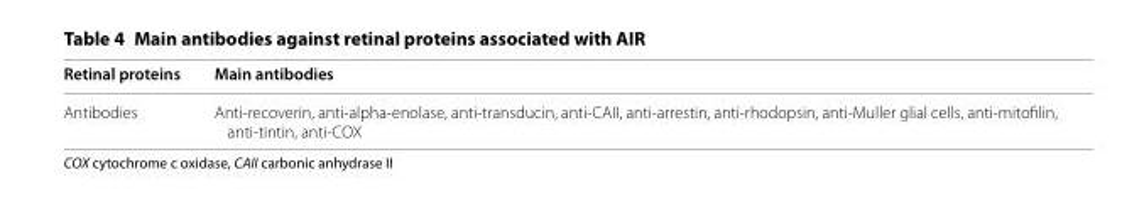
<table><thead><tr><td>Retinal proteins</td><td>Main antibodies</td></tr></thead><tbody><tr><td>Antibodies</td><td>Anti-recoverin, anti-alpha-enolase, anti-transducin, anti-CAII, anti-arrestin, anti-rhodopsin, anti-Muller glial cells, anti-mitofilin, anti-tintin, anti-COX</td></tr></tbody></table>